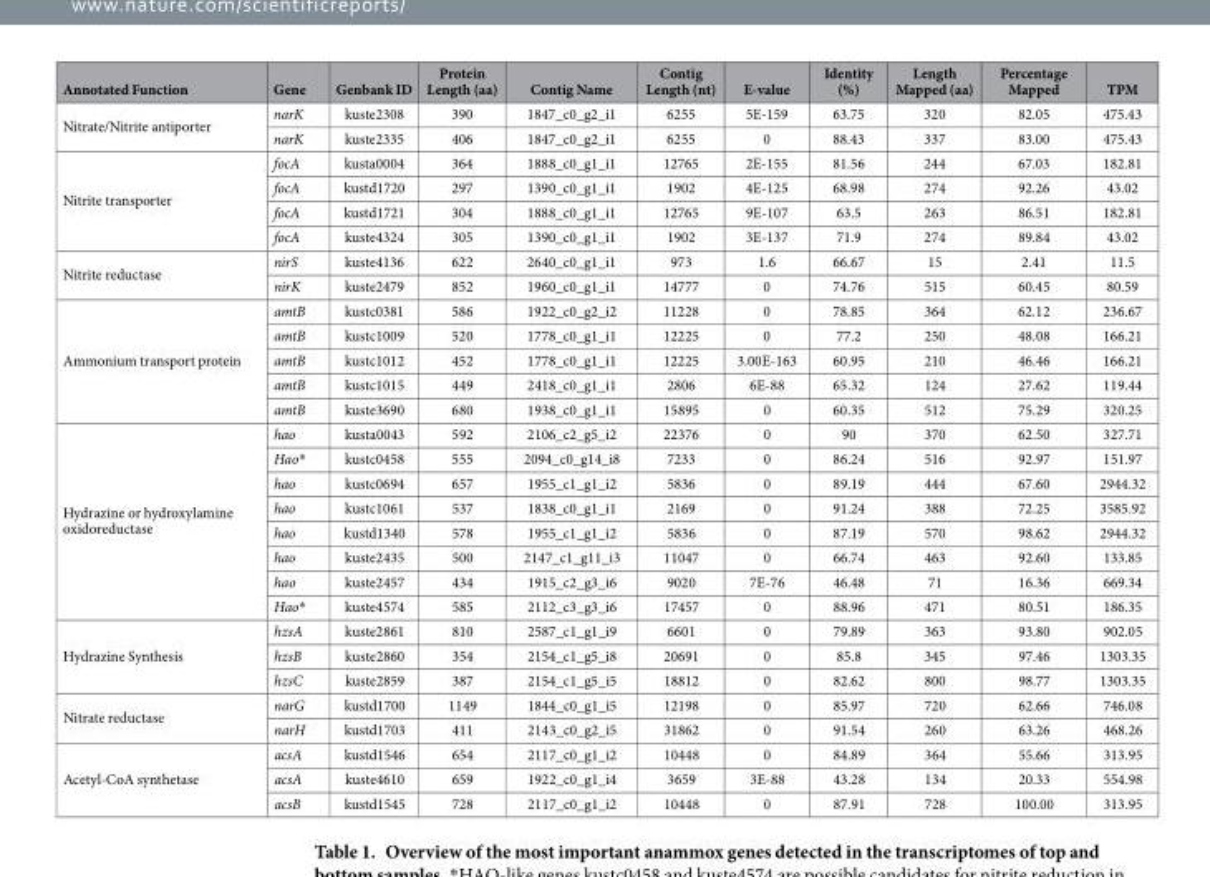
<table><thead><tr><td>Annotated Function</td><td>Gene</td><td>Genbank ID</td><td>Protein Length (aa)</td><td>Contig Name</td><td>Contig Length (nt)</td><td>E-value</td><td>Identity (%)</td><td>Length Mapped (aa)</td><td>Percentage Mapped</td><td>TPM</td></tr></thead><tbody><tr><td rowspan="2">Nitrate/Nitrite antiporter</td><td>narK</td><td>kuste2308</td><td>390</td><td>1847_c0_g2_i1</td><td>6255</td><td>5E-159</td><td>63.75</td><td>320</td><td>82.05</td><td>475.43</td></tr><tr><td>narK</td><td>kuste2335</td><td>406</td><td>1847_c0_g2_i1</td><td>6255</td><td>0</td><td>88.43</td><td>337</td><td>83.00</td><td>475.43</td></tr><tr><td rowspan="4">Nitrite transporter</td><td>focA</td><td>kusta0004</td><td>364</td><td>1888_c0_g1_i1</td><td>12765</td><td>2E-155</td><td>81.56</td><td>244</td><td>67.03</td><td>182.81</td></tr><tr><td>focA</td><td>kustd1720</td><td>297</td><td>1390_c0_g1_i1</td><td>1902</td><td>4E-125</td><td>68.98</td><td>274</td><td>92.26</td><td>43.02</td></tr><tr><td>focA</td><td>kustd1721</td><td>304</td><td>1888_c0_g1_i1</td><td>12765</td><td>9E-107</td><td>63.5</td><td>263</td><td>86.51</td><td>182.81</td></tr><tr><td>focA</td><td>kuste4324</td><td>305</td><td>1390_c0_g1_i1</td><td>1902</td><td>3E-137</td><td>71.9</td><td>274</td><td>89.84</td><td>43.02</td></tr><tr><td rowspan="2">Nitrite reductase</td><td>nirS</td><td>kuste4136</td><td>622</td><td>2640_c0_g1_i1</td><td>973</td><td>1.6</td><td>66.67</td><td>15</td><td>2.41</td><td>11.5</td></tr><tr><td>nirK</td><td>kuste2479</td><td>852</td><td>1960_c0_g1_i1</td><td>14777</td><td>0</td><td>74.76</td><td>515</td><td>60.45</td><td>80.59</td></tr><tr><td rowspan="5">Ammonium transport protein</td><td>amtB</td><td>kustc0381</td><td>586</td><td>1922_c0_g2_i2</td><td>11228</td><td>0</td><td>78.85</td><td>364</td><td>62.12</td><td>236.67</td></tr><tr><td>amtB</td><td>kustc1009</td><td>520</td><td>1778_c0_g1_i1</td><td>12225</td><td>0</td><td>77.2</td><td>250</td><td>48.08</td><td>166.21</td></tr><tr><td>amtB</td><td>kustc1012</td><td>452</td><td>1778_c0_g1_i1</td><td>12225</td><td>3.00E-163</td><td>60.95</td><td>210</td><td>46.46</td><td>166.21</td></tr><tr><td>amtB</td><td>kustc1015</td><td>449</td><td>2418_c0_g1_i1</td><td>2806</td><td>6E-88</td><td>65.32</td><td>124</td><td>27.62</td><td>119.44</td></tr><tr><td>amtB</td><td>kuste3690</td><td>680</td><td>1938_c0_g1_i1</td><td>15895</td><td>0</td><td>60.35</td><td>512</td><td>75.29</td><td>320.25</td></tr><tr><td rowspan="8">Hydrazine or hydroxylamine oxidoreductase</td><td>hao</td><td>kusta0043</td><td>592</td><td>2106_c2_g5_i2</td><td>22376</td><td>0</td><td>90</td><td>370</td><td>62.50</td><td>327.71</td></tr><tr><td>Hao*</td><td>kustc0458</td><td>555</td><td>2094_c0_g14_i8</td><td>7233</td><td>0</td><td>86.24</td><td>516</td><td>92.97</td><td>151.97</td></tr><tr><td>hao</td><td>kustc0694</td><td>657</td><td>1955_c1_g1_i2</td><td>5836</td><td>0</td><td>89.19</td><td>444</td><td>67.60</td><td>2944.32</td></tr><tr><td>hao</td><td>kustc1061</td><td>537</td><td>1838_c0_g1_i1</td><td>2169</td><td>0</td><td>91.24</td><td>388</td><td>72.25</td><td>3585.92</td></tr><tr><td>hao</td><td>kustd1340</td><td>578</td><td>1955_c1_g1_i2</td><td>5836</td><td>0</td><td>87.19</td><td>570</td><td>98.62</td><td>2944.32</td></tr><tr><td>hao</td><td>kuste2435</td><td>500</td><td>2147_c1_g11_i3</td><td>11047</td><td>0</td><td>66.74</td><td>463</td><td>92.60</td><td>133.85</td></tr><tr><td>hao</td><td>kuste2457</td><td>434</td><td>1915_c2_g3_i6</td><td>9020</td><td>7E-76</td><td>46.48</td><td>71</td><td>16.36</td><td>669.34</td></tr><tr><td>Hao*</td><td>kuste4574</td><td>585</td><td>2112_c3_g3_i6</td><td>17457</td><td>0</td><td>88.96</td><td>471</td><td>80.51</td><td>186.35</td></tr><tr><td rowspan="3">Hydrazine Synthesis</td><td>hzsA</td><td>kuste2861</td><td>810</td><td>2587_c1_g1_i9</td><td>6601</td><td>0</td><td>79.89</td><td>363</td><td>93.80</td><td>902.05</td></tr><tr><td>hzsB</td><td>kuste2860</td><td>354</td><td>2154_c1_g5_i8</td><td>20691</td><td>0</td><td>85.8</td><td>345</td><td>97.46</td><td>1303.35</td></tr><tr><td>hzsC</td><td>kuste2859</td><td>387</td><td>2154_c1_g5_i5</td><td>18812</td><td>0</td><td>82.62</td><td>800</td><td>98.77</td><td>1303.35</td></tr><tr><td rowspan="2">Nitrate reductase</td><td>narG</td><td>kustd1700</td><td>1149</td><td>1844_c0_g1_i5</td><td>12198</td><td>0</td><td>85.97</td><td>720</td><td>62.66</td><td>746.08</td></tr><tr><td>narH</td><td>kustd1703</td><td>411</td><td>2143_c0_g2_i5</td><td>31862</td><td>0</td><td>91.54</td><td>260</td><td>63.26</td><td>468.26</td></tr><tr><td rowspan="3">Acetyl-CoA synthetase</td><td>acsA</td><td>kustd1546</td><td>654</td><td>2117_c0_g1_i2</td><td>10448</td><td>0</td><td>84.89</td><td>364</td><td>55.66</td><td>313.95</td></tr><tr><td>acsA</td><td>kuste4610</td><td>659</td><td>1922_c0_g1_i4</td><td>3659</td><td>3E-88</td><td>43.28</td><td>134</td><td>20.33</td><td>554.98</td></tr><tr><td>acsB</td><td>kustd1545</td><td>728</td><td>2117_c0_g1_i2</td><td>10448</td><td>0</td><td>87.91</td><td>728</td><td>100.00</td><td>313.95</td></tr></tbody></table>